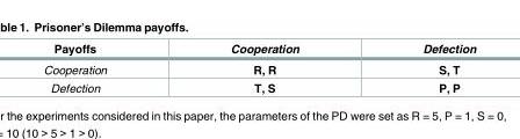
<table><thead><tr><td>Payoffs</td><td>Cooperation</td><td>Defection</td></tr></thead><tbody><tr><td>Cooperation</td><td>R, R</td><td>S, T</td></tr><tr><td>Defection</td><td>T, S</td><td>P, P</td></tr></tbody></table>